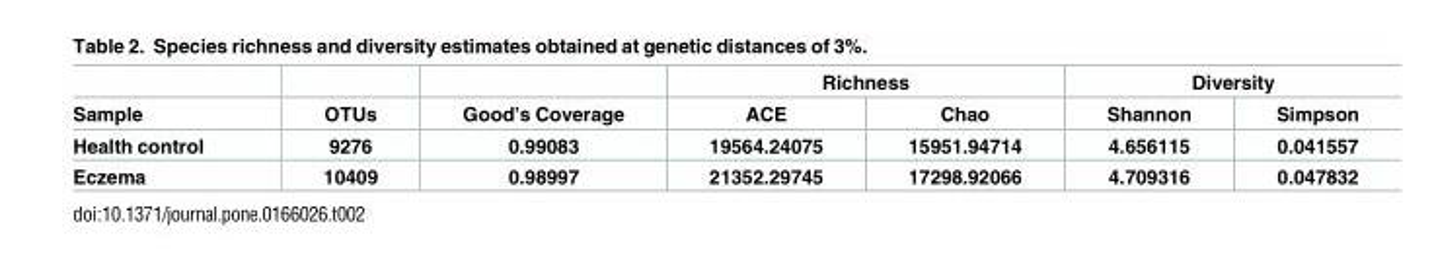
<table><thead><tr><td rowspan="2">Sample</td><td rowspan="2">OTUs</td><td rowspan="2">Good’s Coverage</td><td colspan="2">Richness</td><td colspan="2">Diversity</td></tr><tr><td>ACE</td><td>Chao</td><td>Shannon</td><td>Simpson</td></tr></thead><tbody><tr><td>Health control</td><td>9276</td><td>0.99083</td><td>19564.24075</td><td>15951.94714</td><td>4.656115</td><td>0.041557</td></tr><tr><td>Eczema</td><td>10409</td><td>0.98997</td><td>21352.29745</td><td>17298.92066</td><td>4.709316</td><td>0.047832</td></tr></tbody></table>